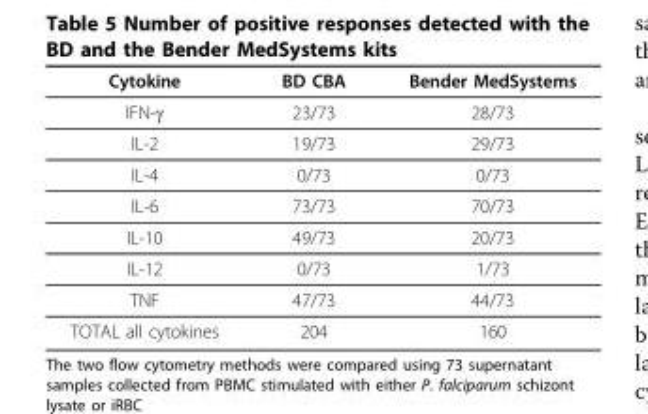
<table><thead><tr><td>Cytokine</td><td>BD CBA</td><td>Bender MedSystems</td></tr></thead><tbody><tr><td>IFN-γ</td><td>23/73</td><td>28/73</td></tr><tr><td>IL-2</td><td>19/73</td><td>29/73</td></tr><tr><td>IL-4</td><td>0/73</td><td>0/73</td></tr><tr><td>IL-6</td><td>73/73</td><td>70/73</td></tr><tr><td>IL-10</td><td>49/73</td><td>20/73</td></tr><tr><td>IL-12</td><td>0/73</td><td>1/73</td></tr><tr><td>TNF</td><td>47/73</td><td>44/73</td></tr><tr><td>TOTAL all cytokines</td><td>204</td><td>160</td></tr></tbody></table>